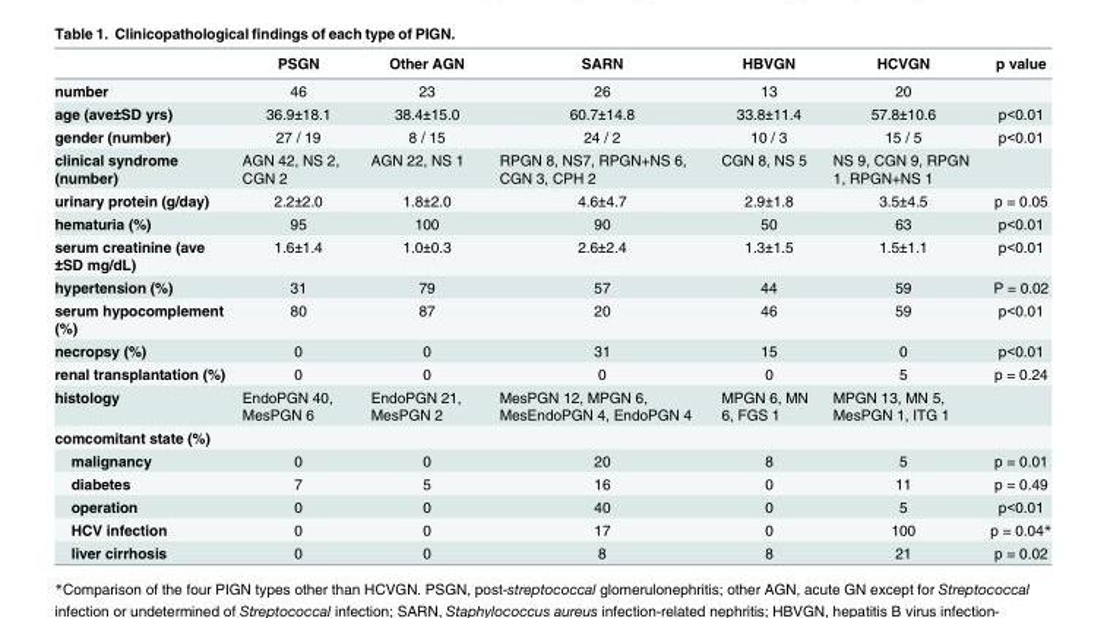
<table><thead><tr><td></td><td>PSGN</td><td>Other AGN</td><td>SARN</td><td>HBVGN</td><td>HCVGN</td><td>p value</td></tr></thead><tbody><tr><td>number</td><td>46</td><td>23</td><td>26</td><td>13</td><td>20</td><td></td></tr><tr><td>age (ave±SD yrs)</td><td>36.9±18.1</td><td>38.4±15.0</td><td>60.7±14.8</td><td>33.8±11.4</td><td>57.8±10.6</td><td>p&lt;0.01</td></tr><tr><td>gender (number)</td><td>27 / 19</td><td>8 / 15</td><td>24 / 2</td><td>10 / 3</td><td>15 / 5</td><td>p&lt;0.01</td></tr><tr><td>clinical syndrome (number)</td><td>AGN 42, NS 2, CGN 2</td><td>AGN 22, NS 1</td><td>RPGN 8, NS7, RPGN+NS 6, CGN 3, CPH 2</td><td>CGN 8, NS 5</td><td>NS 9, CGN 9, RPGN 1, RPGN+NS 1</td><td></td></tr><tr><td>urinary protein (g/day)</td><td>2.2±2.0</td><td>1.8±2.0</td><td>4.6±4.7</td><td>2.9±1.8</td><td>3.5±4.5</td><td>p = 0.05</td></tr><tr><td>hematuria (%)</td><td>95</td><td>100</td><td>90</td><td>50</td><td>63</td><td>p&lt;0.01</td></tr><tr><td>serum creatinine (ave ±SD mg/dL)</td><td>1.6±1.4</td><td>1.0±0.3</td><td>2.6±2.4</td><td>1.3±1.5</td><td>1.5±1.1</td><td>p&lt;0.01</td></tr><tr><td>hypertension (%)</td><td>31</td><td>79</td><td>57</td><td>44</td><td>59</td><td>P = 0.02</td></tr><tr><td>serum hypocomplement (%)</td><td>80</td><td>87</td><td>20</td><td>46</td><td>59</td><td>p&lt;0.01</td></tr><tr><td>necropsy (%)</td><td>0</td><td>0</td><td>31</td><td>15</td><td>0</td><td>p&lt;0.01</td></tr><tr><td>renal transplantation (%)</td><td>0</td><td>0</td><td>0</td><td>0</td><td>5</td><td>p = 0.24</td></tr><tr><td>histology</td><td>EndoPGN 40, MesPGN 6</td><td>EndoPGN 21, MesPGN 2</td><td>MesPGN 12, MPGN 6, MesEndoPGN 4, EndoPGN 4</td><td>MPGN 6, MN 6, FGS 1</td><td>MPGN 13, MN 5, MesPGN 1, ITG 1</td><td></td></tr><tr><td colspan="7">comcomitant state (%)</td></tr><tr><td>malignancy</td><td>0</td><td>0</td><td>20</td><td>8</td><td>5</td><td>p = 0.01</td></tr><tr><td>diabetes</td><td>7</td><td>5</td><td>16</td><td>0</td><td>11</td><td>p = 0.49</td></tr><tr><td>operation</td><td>0</td><td>0</td><td>40</td><td>0</td><td>5</td><td>p&lt;0.01</td></tr><tr><td>HCV infection</td><td>0</td><td>0</td><td>17</td><td>0</td><td>100</td><td>p = 0.04*</td></tr><tr><td>liver cirrhosis</td><td>0</td><td>0</td><td>8</td><td>8</td><td>21</td><td>p = 0.02</td></tr></tbody></table>